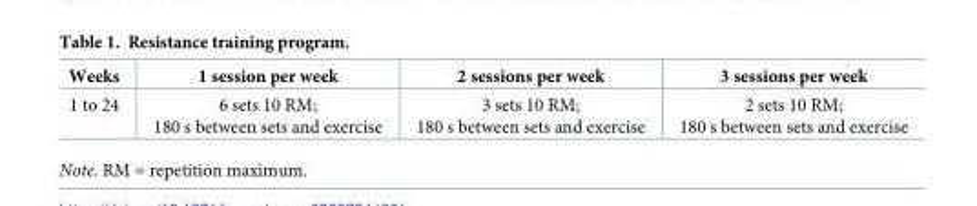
<table><thead><tr><td>Weeks</td><td>1 session per week</td><td>2 sessions per week</td><td>3 sessions per week</td></tr></thead><tbody><tr><td>1 to 24</td><td>6 sets 10 RM; 180 s between sets and exercise</td><td>3 sets 10 RM; 180 s between sets and exercise</td><td>2 sets 10 RM; 180 s between sets and exercise</td></tr></tbody></table>